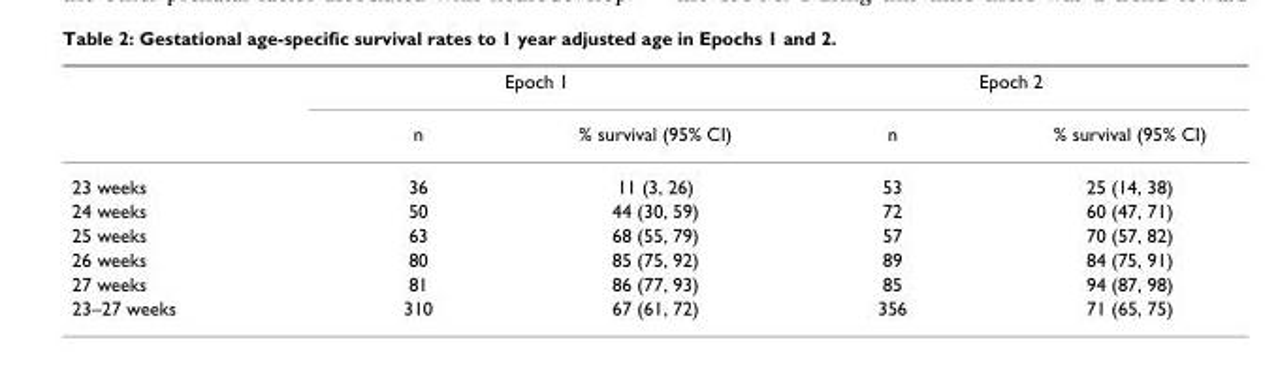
<table><thead><tr><td rowspan="2"></td><td colspan="2">Epoch 1</td><td colspan="2">Epoch 2</td></tr><tr><td>n</td><td>% survival (95% CI)</td><td>n</td><td>% survival (95% CI)</td></tr></thead><tbody><tr><td>23 weeks</td><td>36</td><td>11 (3, 26)</td><td>53</td><td>25 (14, 38)</td></tr><tr><td>24 weeks</td><td>50</td><td>44 (30, 59)</td><td>72</td><td>60 (47, 71)</td></tr><tr><td>25 weeks</td><td>63</td><td>68 (55, 79)</td><td>57</td><td>70 (57, 82)</td></tr><tr><td>26 weeks</td><td>80</td><td>85 (75, 92)</td><td>89</td><td>84 (75, 91)</td></tr><tr><td>27 weeks</td><td>81</td><td>86 (77, 93)</td><td>85</td><td>94 (87, 98)</td></tr><tr><td>23–27 weeks</td><td>310</td><td>67 (61, 72)</td><td>356</td><td>71 (65, 75)</td></tr></tbody></table>